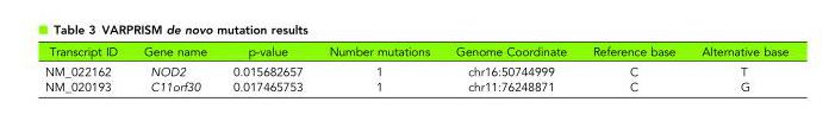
<table><thead><tr><td>Transcript ID</td><td>Gene name</td><td>p-value</td><td>Number mutations</td><td>Genome Coordinate</td><td>Reference base</td><td>Alternative base</td></tr></thead><tbody><tr><td>NM_022162</td><td>NOD2</td><td>0.015682657</td><td>1</td><td>chr16:50744999</td><td>C</td><td>T</td></tr><tr><td>NM_020193</td><td>C11orf30</td><td>0.017465753</td><td>1</td><td>chr11:76248871</td><td>C</td><td>G</td></tr></tbody></table>